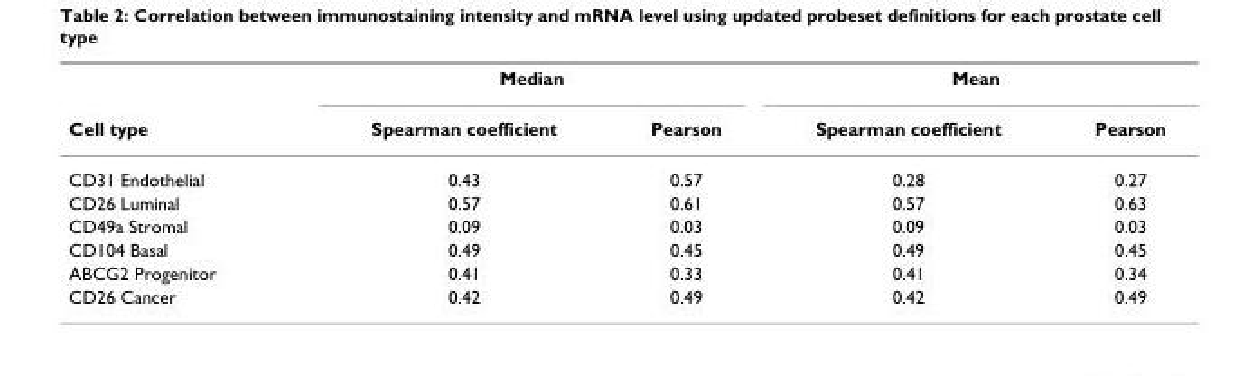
<table><thead><tr><td rowspan="2">Cell type</td><td colspan="2">Median</td><td colspan="2">Mean</td></tr><tr><td>Spearman coefficient</td><td>Pearson</td><td>Spearman coefficient</td><td>Pearson</td></tr></thead><tbody><tr><td>CD31 Endothelial</td><td>0.43</td><td>0.57</td><td>0.28</td><td>0.27</td></tr><tr><td>CD26 Luminal</td><td>0.57</td><td>0.61</td><td>0.57</td><td>0.63</td></tr><tr><td>CD49a Stromal</td><td>0.09</td><td>0.03</td><td>0.09</td><td>0.03</td></tr><tr><td>CD104 Basal</td><td>0.49</td><td>0.45</td><td>0.49</td><td>0.45</td></tr><tr><td>ABCG2 Progenitor</td><td>0.41</td><td>0.33</td><td>0.41</td><td>0.34</td></tr><tr><td>CD26 Cancer</td><td>0.42</td><td>0.49</td><td>0.42</td><td>0.49</td></tr></tbody></table>